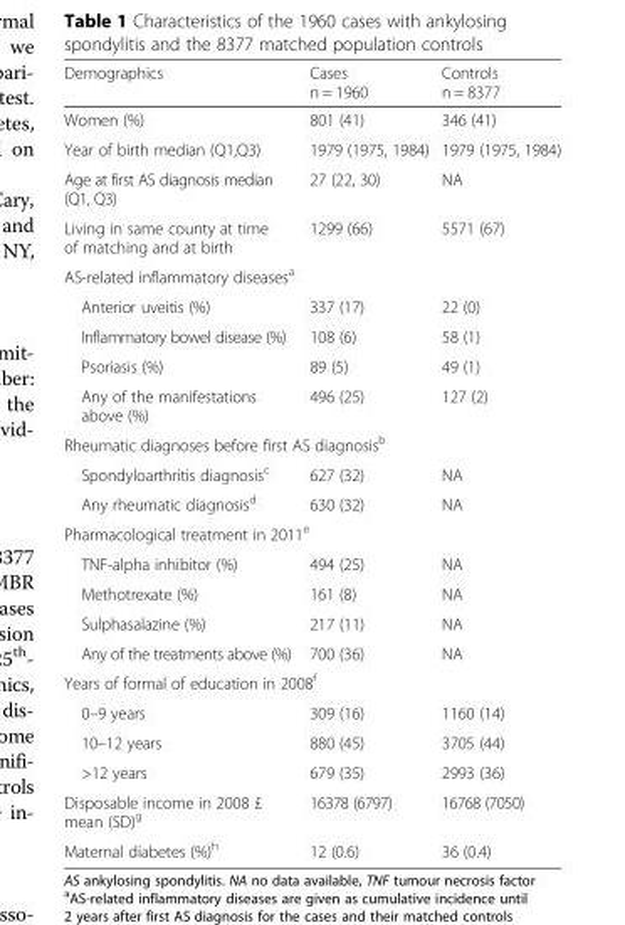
<table><thead><tr><td>Demographics</td><td>Cases n = 1960</td><td>Controls n = 8377</td></tr></thead><tbody><tr><td>Women (%)</td><td>801 (41)</td><td>346 (41)</td></tr><tr><td>Year of birth median (Q1,Q3)</td><td>1979 (1975, 1984)</td><td>1979 (1975, 1984)</td></tr><tr><td>Age at first AS diagnosis median (Q1, Q3)</td><td>27 (22, 30)</td><td>NA</td></tr><tr><td>Living in same county at time of matching and at birth</td><td>1299 (66)</td><td>5571 (67)</td></tr><tr><td colspan="3">AS-related inflammatory diseases<sup>a</sup></td></tr><tr><td>Anterior uveitis (%)</td><td>337 (17)</td><td>22 (0)</td></tr><tr><td>Inflammatory bowel disease (%)</td><td>108 (6)</td><td>58 (1)</td></tr><tr><td>Psoriasis (%)</td><td>89 (5)</td><td>49 (1)</td></tr><tr><td>Any of the manifestations above (%)</td><td>496 (25)</td><td>127 (2)</td></tr><tr><td colspan="3">Rheumatic diagnoses before first AS diagnosis<sup>b</sup></td></tr><tr><td>Spondyloarthritis diagnosis<sup>c</sup></td><td>627 (32)</td><td>NA</td></tr><tr><td>Any rheumatic diagnosis<sup>d</sup></td><td>630 (32)</td><td>NA</td></tr><tr><td colspan="3">Pharmacological treatment in 2011<sup>e</sup></td></tr><tr><td>TNF-alpha inhibitor (%)</td><td>494 (25)</td><td>NA</td></tr><tr><td>Methotrexate (%)</td><td>161 (8)</td><td>NA</td></tr><tr><td>Sulphasalazine (%)</td><td>217 (11)</td><td>NA</td></tr><tr><td>Any of the treatments above (%)</td><td>700 (36)</td><td>NA</td></tr><tr><td colspan="3">Years of formal of education in 2008<sup>f</sup></td></tr><tr><td>0–9 years</td><td>309 (16)</td><td>1160 (14)</td></tr><tr><td>10–12 years</td><td>880 (45)</td><td>3705 (44)</td></tr><tr><td>&gt;12 years</td><td>679 (35)</td><td>2993 (36)</td></tr><tr><td>Disposable income in 2008 £ mean (SD)<sup>g</sup></td><td>16378 (6797)</td><td>16768 (7050)</td></tr><tr><td>Maternal diabetes (%)<sup>h</sup></td><td>12 (0.6)</td><td>36 (0.4)</td></tr></tbody></table>